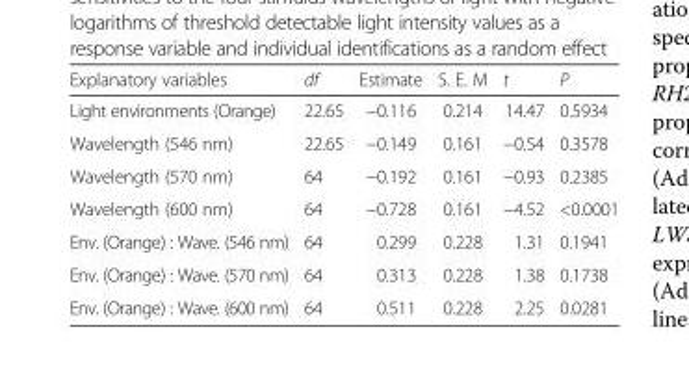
<table><thead><tr><td>Explanatory variables</td><td>df</td><td>Estimate</td><td>S. E. M</td><td>t</td><td>P</td></tr></thead><tbody><tr><td>Light environments (Orange)</td><td>22.65</td><td>−0.116</td><td>0.214</td><td>14.47</td><td>0.5934</td></tr><tr><td>Wavelength (546 nm)</td><td>22.65</td><td>−0.149</td><td>0.161</td><td>−0.54</td><td>0.3578</td></tr><tr><td>Wavelength (570 nm)</td><td>64</td><td>−0.192</td><td>0.161</td><td>−0.93</td><td>0.2385</td></tr><tr><td>Wavelength (600 nm)</td><td>64</td><td>−0.728</td><td>0.161</td><td>−4.52</td><td>&lt;0.0001</td></tr><tr><td>Env. (Orange) : Wave. (546 nm)</td><td>64</td><td>0.299</td><td>0.228</td><td>1.31</td><td>0.1941</td></tr><tr><td>Env. (Orange) : Wave. (570 nm)</td><td>64</td><td>0.313</td><td>0.228</td><td>1.38</td><td>0.1738</td></tr><tr><td>Env. (Orange) : Wave. (600 nm)</td><td>64</td><td>0.511</td><td>0.228</td><td>2.25</td><td>0.0281</td></tr></tbody></table>